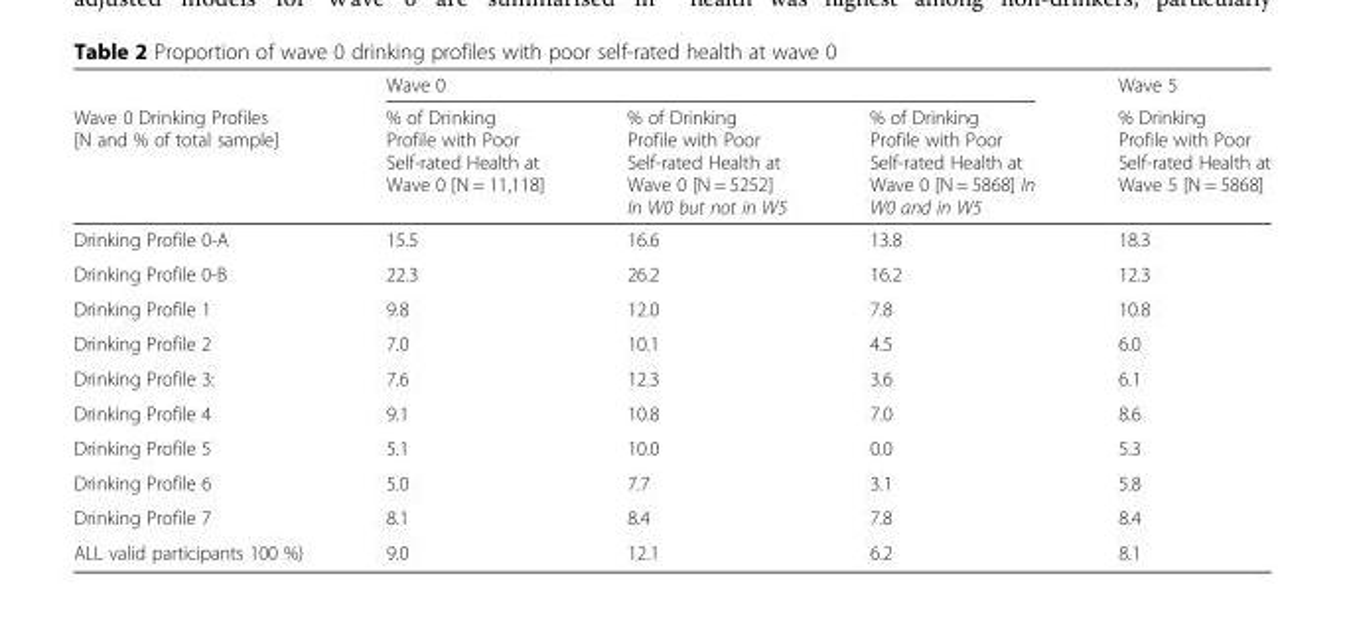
<table><thead><tr><td rowspan="2">Wave 0 Drinking Profiles [N and % of total sample]</td><td colspan="3">Wave 0</td><td rowspan="2">Wave 5 % Drinking Profile with Poor Self-rated Health at Wave 5 [N = 5868]</td></tr><tr><td>% of Drinking Profile with Poor Self-rated Health at Wave 0 [N = 11,118]</td><td>% of Drinking Profile with Poor Self-rated Health at Wave 0 [N = 5252] In W0 but not in W5</td><td>% of Drinking Profile with Poor Self-rated Health at Wave 0 [N = 5868] In W0 and in W5</td></tr></thead><tbody><tr><td>Drinking Profile 0-A</td><td>15.5</td><td>16.6</td><td>13.8</td><td>18.3</td></tr><tr><td>Drinking Profile 0-B</td><td>22.3</td><td>26.2</td><td>16.2</td><td>12.3</td></tr><tr><td>Drinking Profile 1</td><td>9.8</td><td>12.0</td><td>7.8</td><td>10.8</td></tr><tr><td>Drinking Profile 2</td><td>7.0</td><td>10.1</td><td>4.5</td><td>6.0</td></tr><tr><td>Drinking Profile 3:</td><td>7.6</td><td>12.3</td><td>3.6</td><td>6.1</td></tr><tr><td>Drinking Profile 4</td><td>9.1</td><td>10.8</td><td>7.0</td><td>8.6</td></tr><tr><td>Drinking Profile 5</td><td>5.1</td><td>10.0</td><td>0.0</td><td>5.3</td></tr><tr><td>Drinking Profile 6</td><td>5.0</td><td>7.7</td><td>3.1</td><td>5.8</td></tr><tr><td>Drinking Profile 7</td><td>8.1</td><td>8.4</td><td>7.8</td><td>8.4</td></tr><tr><td>ALL valid participants 100 %)</td><td>9.0</td><td>12.1</td><td>6.2</td><td>8.1</td></tr></tbody></table>